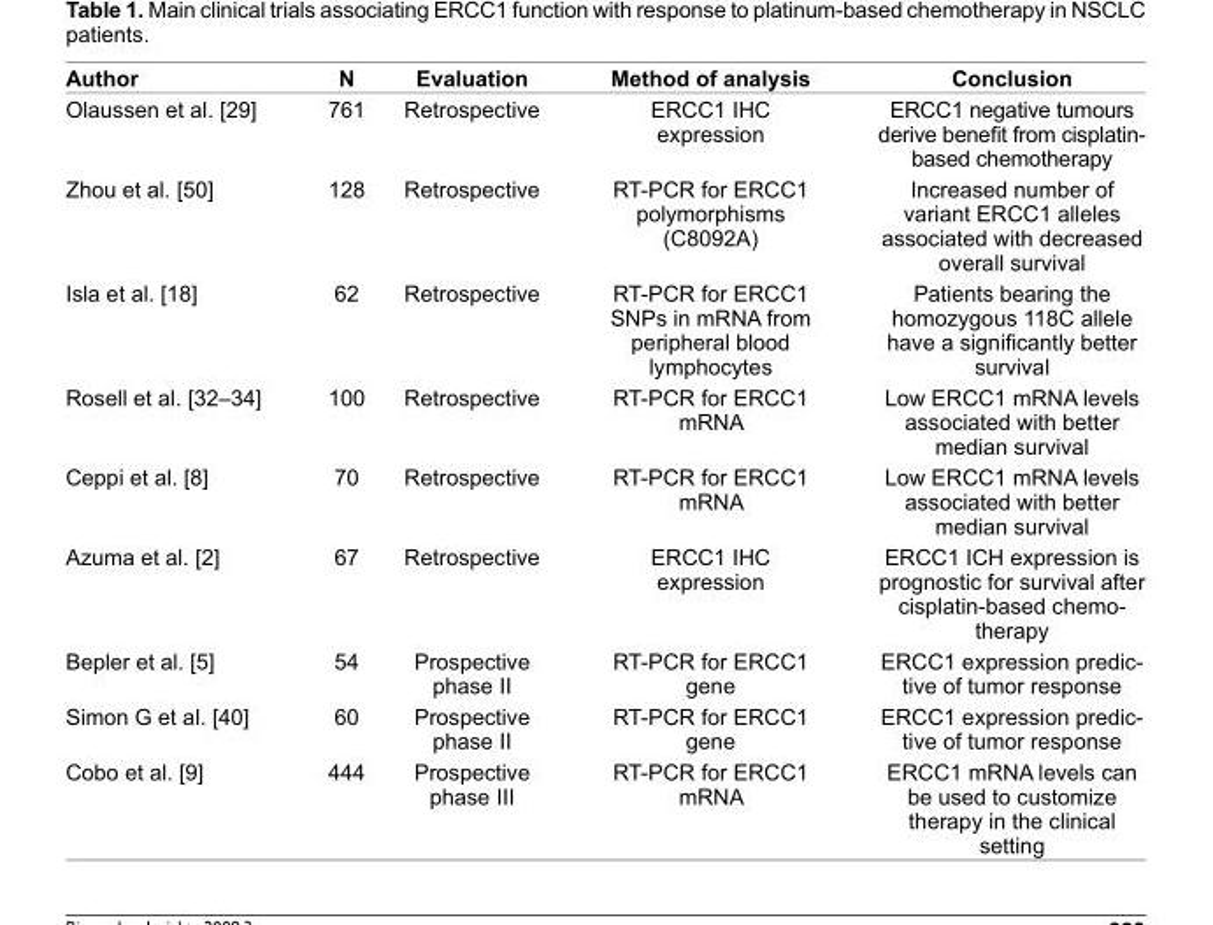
<table><thead><tr><td>Author</td><td>N</td><td>Evaluation</td><td>Method of analysis</td><td>Conclusion</td></tr></thead><tbody><tr><td>Olaussen et al. [29]</td><td>761</td><td>Retrospective</td><td>ERCC1 IHC expression</td><td>ERCC1 negative tumours derive benefi t from cisplatin- based chemotherapy</td></tr><tr><td>Zhou et al. [50]</td><td>128</td><td>Retrospective</td><td>RT-PCR for ERCC1 polymorphisms (C8092A)</td><td>Increased number of variant ERCC1 alleles associated with decreased overall survival</td></tr><tr><td>Isla et al. [18]</td><td>62</td><td>Retrospective</td><td>RT-PCR for ERCC1 SNPs in mRNA from peripheral blood lymphocytes</td><td>Patients bearing the homozygous 118C allele have a signifi cantly better survival</td></tr><tr><td>Rosell et al. [32–34]</td><td>100</td><td>Retrospective</td><td>RT-PCR for ERCC1 mRNA</td><td>Low ERCC1 mRNA levels associated with better median survival</td></tr><tr><td>Ceppi et al. [8]</td><td>70</td><td>Retrospective</td><td>RT-PCR for ERCC1 mRNA</td><td>Low ERCC1 mRNA levels associated with better median survival</td></tr><tr><td>Azuma et al. [2]</td><td>67</td><td>Retrospective</td><td>ERCC1 IHC expression</td><td>ERCC1 ICH expression is prognostic for survival after cisplatin-based chemo- therapy</td></tr><tr><td>Bepler et al. [5]</td><td>54</td><td>Prospective phase II</td><td>RT-PCR for ERCC1 gene</td><td>ERCC1 expression predic- tive of tumor response</td></tr><tr><td>Simon G et al. [40]</td><td>60</td><td>Prospective phase II</td><td>RT-PCR for ERCC1 gene</td><td>ERCC1 expression predic- tive of tumor response</td></tr><tr><td>Cobo et al. [9]</td><td>444</td><td>Prospective phase III</td><td>RT-PCR for ERCC1 mRNA</td><td>ERCC1 mRNA levels can be used to customize therapy in the clinical setting</td></tr></tbody></table>